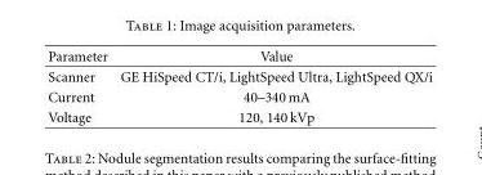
<table><thead><tr><td>Parameter</td><td>Value</td></tr></thead><tbody><tr><td>Scanner</td><td>GE HiSpeed CT/i, LightSpeed Ultra, LightSpeed QX/i</td></tr><tr><td>Current</td><td>40–340 mA</td></tr><tr><td>Voltage</td><td>120, 140 kVp</td></tr></tbody></table>